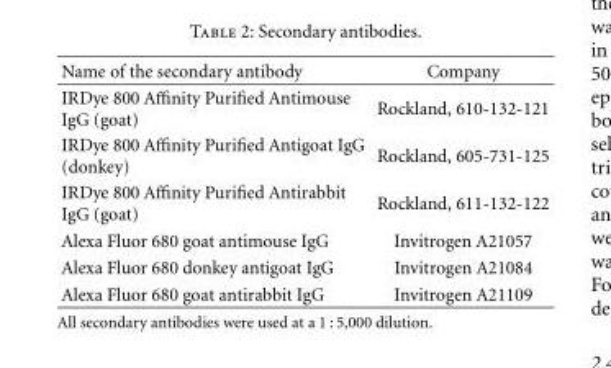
<table><thead><tr><td>Name of the secondary antibody</td><td>Company</td></tr></thead><tbody><tr><td>IRDye 800 Affinity Purified Antimouse IgG (goat)</td><td>Rockland, 610-132-121</td></tr><tr><td>IRDye 800 Affinity Purified Antigoat IgG (donkey)</td><td>Rockland, 605-731-125</td></tr><tr><td>IRDye 800 Affinity Purified Antirabbit IgG (goat)</td><td>Rockland, 611-132-122</td></tr><tr><td>Alexa Fluor 680 goat antimouse IgG</td><td>Invitrogen A21057</td></tr><tr><td>Alexa Fluor 680 donkey antigoat IgG</td><td>Invitrogen A21084</td></tr><tr><td>Alexa Fluor 680 goat antirabbit IgG</td><td>Invitrogen A21109</td></tr></tbody></table>